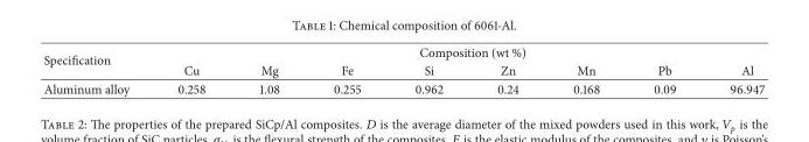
<table><thead><tr><td rowspan="2">Specification</td><td colspan="8">Composition (wt %)</td></tr><tr><td>Cu</td><td>Mg</td><td>Fe</td><td>Si</td><td>Zn</td><td>Mn</td><td>Pb</td><td>Al</td></tr></thead><tbody><tr><td>Aluminum alloy</td><td>0.258</td><td>1.08</td><td>0.255</td><td>0.962</td><td>0.24</td><td>0.168</td><td>0.09</td><td>96.947</td></tr></tbody></table>